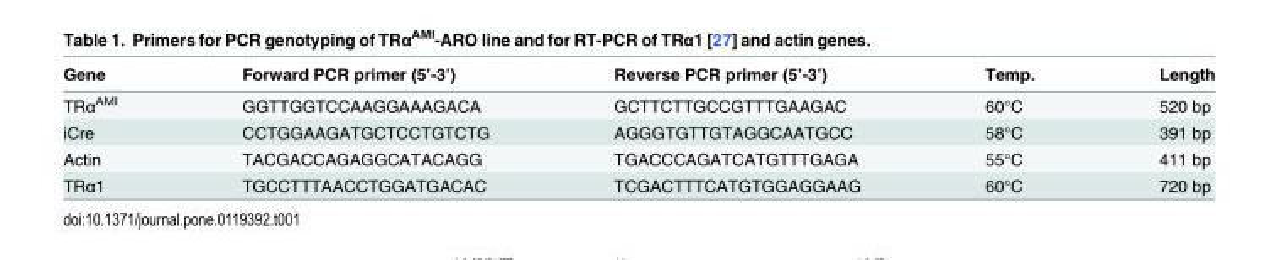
<table><thead><tr><td>Gene</td><td>Forward PCR primer (5’-3’)</td><td>Reverse PCR primer (5’-3’)</td><td>Temp.</td><td>Length</td></tr></thead><tbody><tr><td>TRα<sup>AMI</sup></td><td>GGTTGGTCCAAGGAAAGACA</td><td>GCTTCTTGCCGTTTGAAGAC</td><td>60°C</td><td>520 bp</td></tr><tr><td>iCre</td><td>CCTGGAAGATGCTCCTGTCTG</td><td>AGGGTGTTGTAGGCAATGCC</td><td>58°C</td><td>391 bp</td></tr><tr><td>Actin</td><td>TACGACCAGAGGCATACAGG</td><td>TGACCCAGATCATGTTTGAGA</td><td>55°C</td><td>411 bp</td></tr><tr><td>TRα1</td><td>TGCCTTTAACCTGGATGACAC</td><td>TCGACTTTCATGTGGAGGAAG</td><td>60°C</td><td>720 bp</td></tr></tbody></table>